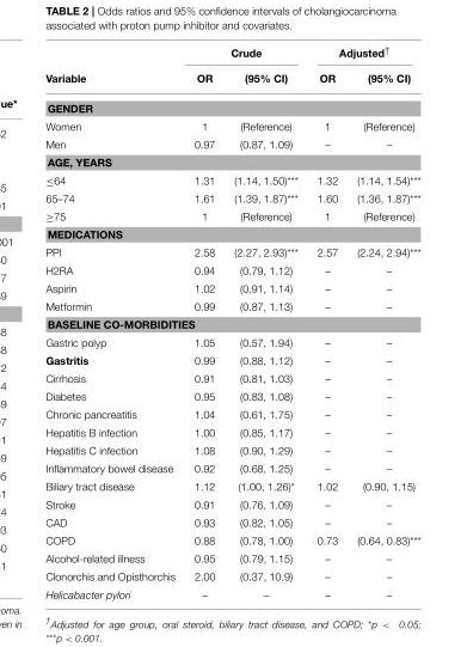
<table><thead><tr><td rowspan="2">Variable</td><td colspan="2">Crude</td><td colspan="2">Adjusted<sup>†</sup></td></tr><tr><td>OR</td><td>(95% CI)</td><td>OR</td><td>(95% CI)</td></tr></thead><tbody><tr><td colspan="5">GENDER</td></tr><tr><td>Women</td><td>1</td><td>(Reference)</td><td>1</td><td>(Reference)</td></tr><tr><td>Men</td><td>0.97</td><td>(0.87, 1.09)</td><td>–</td><td>–</td></tr><tr><td colspan="5">AGE, YEARS</td></tr><tr><td>≤64</td><td>1.31</td><td>(1.14, 1.50)***</td><td>1.32</td><td>(1.14, 1.54)***</td></tr><tr><td>65–74</td><td>1.61</td><td>(1.39, 1.87)***</td><td>1.60</td><td>(1.36, 1.87)***</td></tr><tr><td>≥75</td><td>1</td><td>(Reference)</td><td>1</td><td>(Reference)</td></tr><tr><td colspan="5">MEDICATIONS</td></tr><tr><td>PPI</td><td>2.58</td><td>(2.27, 2.93)***</td><td>2.57</td><td>(2.24, 2.94)***</td></tr><tr><td>H2RA</td><td>0.94</td><td>(0.79, 1.12)</td><td>–</td><td>–</td></tr><tr><td>Aspirin</td><td>1.02</td><td>(0.91, 1.14)</td><td>–</td><td>–</td></tr><tr><td>Metformin</td><td>0.99</td><td>(0.87, 1.13)</td><td>–</td><td>–</td></tr><tr><td colspan="5">BASELINE CO-MORBIDITIES</td></tr><tr><td>Gastric polyp</td><td>1.05</td><td>(0.57, 1.94)</td><td>–</td><td>–</td></tr><tr><td>Gastritis</td><td>0.99</td><td>(0.88, 1.12)</td><td>–</td><td>–</td></tr><tr><td>Cirrhosis</td><td>0.91</td><td>(0.81, 1.03)</td><td>–</td><td>–</td></tr><tr><td>Diabetes</td><td>0.95</td><td>(0.83, 1.08)</td><td>–</td><td>–</td></tr><tr><td>Chronic pancreatitis</td><td>1.04</td><td>(0.61, 1.75)</td><td>–</td><td>–</td></tr><tr><td>Hepatitis B infection</td><td>1.00</td><td>(0.85, 1.17)</td><td>–</td><td>–</td></tr><tr><td>Hepatitis C infection</td><td>1.08</td><td>(0.90, 1.29)</td><td>–</td><td>–</td></tr><tr><td>Inflammatory bowel disease</td><td>0.92</td><td>(0.68, 1.25)</td><td>–</td><td>–</td></tr><tr><td>Biliary tract disease</td><td>1.12</td><td>(1.00, 1.26)*</td><td>1.02</td><td>(0.90, 1.15)</td></tr><tr><td>Stroke</td><td>0.91</td><td>(0.76, 1.09)</td><td>–</td><td>–</td></tr><tr><td>CAD</td><td>0.93</td><td>(0.82, 1.05)</td><td>–</td><td>–</td></tr><tr><td>COPD</td><td>0.88</td><td>(0.78, 1.00)</td><td>0.73</td><td>(0.64, 0.83)***</td></tr><tr><td>Alcohol-related illness</td><td>0.95</td><td>(0.79, 1.15)</td><td>–</td><td>–</td></tr><tr><td>Clonorchis and Opisthorchis</td><td>2.00</td><td>(0.37, 10.9)</td><td>–</td><td>–</td></tr><tr><td>Helicabacter pylori</td><td>–</td><td>–</td><td>–</td><td>–</td></tr></tbody></table>